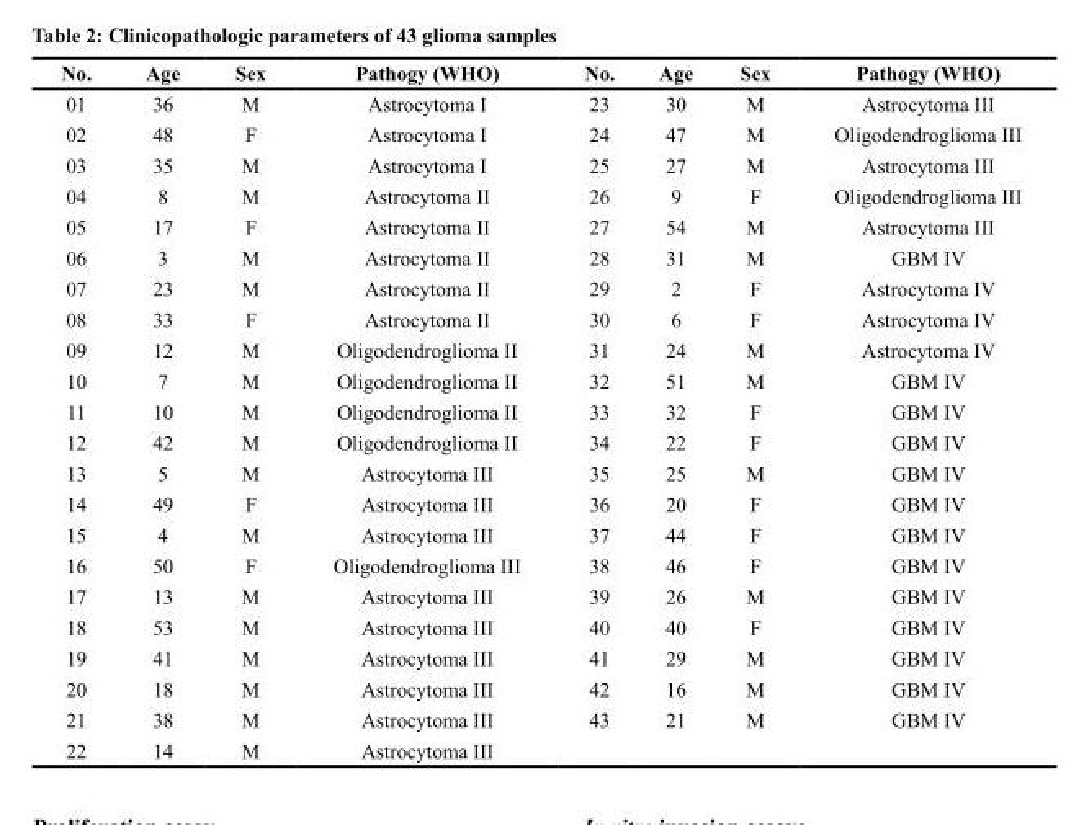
<table><thead><tr><td>No.</td><td>Age</td><td>Sex</td><td>Pathogy (WHO)</td><td>No.</td><td>Age</td><td>Sex</td><td>Pathogy (WHO)</td></tr></thead><tbody><tr><td>01</td><td>36</td><td>M</td><td>Astrocytoma I</td><td>23</td><td>30</td><td>M</td><td>Astrocytoma III</td></tr><tr><td>02</td><td>48</td><td>F</td><td>Astrocytoma I</td><td>24</td><td>47</td><td>M</td><td>Oligodendroglioma III</td></tr><tr><td>03</td><td>35</td><td>M</td><td>Astrocytoma I</td><td>25</td><td>27</td><td>M</td><td>Astrocytoma III</td></tr><tr><td>04</td><td>8</td><td>M</td><td>Astrocytoma II</td><td>26</td><td>9</td><td>F</td><td>Oligodendroglioma III</td></tr><tr><td>05</td><td>17</td><td>F</td><td>Astrocytoma II</td><td>27</td><td>54</td><td>M</td><td>Astrocytoma III</td></tr><tr><td>06</td><td>3</td><td>M</td><td>Astrocytoma II</td><td>28</td><td>31</td><td>M</td><td>GBM IV</td></tr><tr><td>07</td><td>23</td><td>M</td><td>Astrocytoma II</td><td>29</td><td>2</td><td>F</td><td>Astrocytoma IV</td></tr><tr><td>08</td><td>33</td><td>F</td><td>Astrocytoma II</td><td>30</td><td>6</td><td>F</td><td>Astrocytoma IV</td></tr><tr><td>09</td><td>12</td><td>M</td><td>Oligodendroglioma II</td><td>31</td><td>24</td><td>M</td><td>Astrocytoma IV</td></tr><tr><td>10</td><td>7</td><td>M</td><td>Oligodendroglioma II</td><td>32</td><td>51</td><td>M</td><td>GBM IV</td></tr><tr><td>11</td><td>10</td><td>M</td><td>Oligodendroglioma II</td><td>33</td><td>32</td><td>F</td><td>GBM IV</td></tr><tr><td>12</td><td>42</td><td>M</td><td>Oligodendroglioma II</td><td>34</td><td>22</td><td>F</td><td>GBM IV</td></tr><tr><td>13</td><td>5</td><td>M</td><td>Astrocytoma III</td><td>35</td><td>25</td><td>M</td><td>GBM IV</td></tr><tr><td>14</td><td>49</td><td>F</td><td>Astrocytoma III</td><td>36</td><td>20</td><td>F</td><td>GBM IV</td></tr><tr><td>15</td><td>4</td><td>M</td><td>Astrocytoma III</td><td>37</td><td>44</td><td>F</td><td>GBM IV</td></tr><tr><td>16</td><td>50</td><td>F</td><td>Oligodendroglioma III</td><td>38</td><td>46</td><td>F</td><td>GBM IV</td></tr><tr><td>17</td><td>13</td><td>M</td><td>Astrocytoma III</td><td>39</td><td>26</td><td>M</td><td>GBM IV</td></tr><tr><td>18</td><td>53</td><td>M</td><td>Astrocytoma III</td><td>40</td><td>40</td><td>F</td><td>GBM IV</td></tr><tr><td>19</td><td>41</td><td>M</td><td>Astrocytoma III</td><td>41</td><td>29</td><td>M</td><td>GBM IV</td></tr><tr><td>20</td><td>18</td><td>M</td><td>Astrocytoma III</td><td>42</td><td>16</td><td>M</td><td>GBM IV</td></tr><tr><td>21</td><td>38</td><td>M</td><td>Astrocytoma III</td><td>43</td><td>21</td><td>M</td><td>GBM IV</td></tr><tr><td>22</td><td>14</td><td>M</td><td>Astrocytoma III</td><td></td><td></td><td></td><td></td></tr></tbody></table>